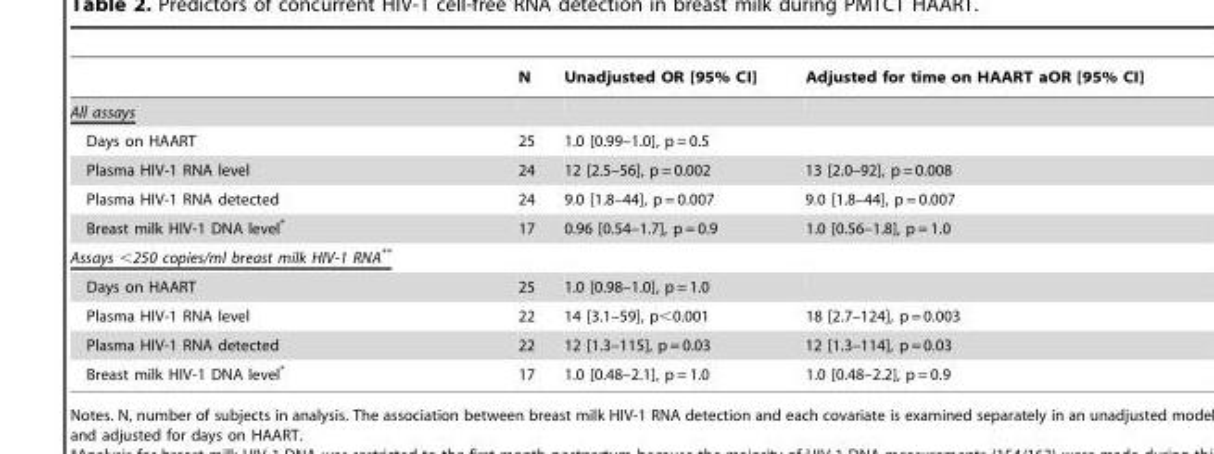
<table><thead><tr><td></td><td>N</td><td>Unadjusted OR [95% CI]</td><td>Adjusted for time on HAART aOR [95% CI]</td></tr></thead><tbody><tr><td colspan="4">All assays</td></tr><tr><td>Days on HAART</td><td>25</td><td>1.0 [0.99–1.0], p = 0.5</td><td></td></tr><tr><td>Plasma HIV-1 RNA level</td><td>24</td><td>12 [2.5–56], p = 0.002</td><td>13 [2.0–92], p = 0.008</td></tr><tr><td>Plasma HIV-1 RNA detected</td><td>24</td><td>9.0 [1.8–44], p = 0.007</td><td>9.0 [1.8–44], p = 0.007</td></tr><tr><td>Breast milk HIV-1 DNA level*</td><td>17</td><td>0.96 [0.54–1.7], p = 0.9</td><td>1.0 [0.56–1.8], p = 1.0</td></tr><tr><td colspan="4">Assays &lt;250 copies/ml breast milk HIV-1 RNA**</td></tr><tr><td>Days on HAART</td><td>25</td><td>1.0 [0.98–1.0], p = 1.0</td><td></td></tr><tr><td>Plasma HIV-1 RNA level</td><td>22</td><td>14 [3.1–59], p&lt;0.001</td><td>18 [2.7–124], p = 0.003</td></tr><tr><td>Plasma HIV-1 RNA detected</td><td>22</td><td>12 [1.3–115], p = 0.03</td><td>12 [1.3–114], p = 0.03</td></tr><tr><td>Breast milk HIV-1 DNA level*</td><td>17</td><td>1.0 [0.48–2.1], p = 1.0</td><td>1.0 [0.48–2.2], p = 0.9</td></tr></tbody></table>